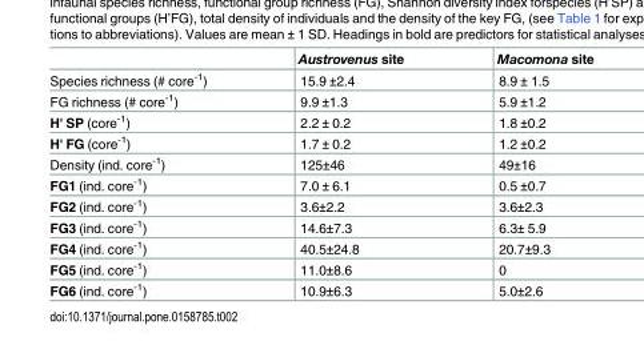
<table><thead><tr><td></td><td>Austrovenus site</td><td>Macomona site</td></tr></thead><tbody><tr><td>Species richness (# core<sup>-1</sup>)</td><td>15.9 ±2.4</td><td>8.9 ± 1.5</td></tr><tr><td>FG richness (# core<sup>-1</sup>)</td><td>9.9 ±1.3</td><td>5.9 ±1.2</td></tr><tr><td>H&#x27; SP (core<sup>-1</sup>)</td><td>2.2 ± 0.2</td><td>1.8 ±0.2</td></tr><tr><td>H&#x27; FG (core<sup>-1</sup>)</td><td>1.7 ± 0.2</td><td>1.2 ±0.2</td></tr><tr><td>Density (ind. core<sup>-1</sup>)</td><td>125±46</td><td>49±16</td></tr><tr><td>FG1 (ind. core<sup>-1</sup>)</td><td>7.0 ± 6.1</td><td>0.5 ±0.7</td></tr><tr><td>FG2 (ind. core<sup>-1</sup>)</td><td>3.6±2.2</td><td>3.6±2.3</td></tr><tr><td>FG3 (ind. core<sup>-1</sup>)</td><td>14.6±7.3</td><td>6.3± 5.9</td></tr><tr><td>FG4 (ind. core<sup>-1</sup>)</td><td>40.5±24.8</td><td>20.7±9.3</td></tr><tr><td>FG5 (ind. core<sup>-1</sup>)</td><td>11.0±8.6</td><td>0</td></tr><tr><td>FG6 (ind. core<sup>-1</sup>)</td><td>10.9±6.3</td><td>5.0±2.6</td></tr></tbody></table>